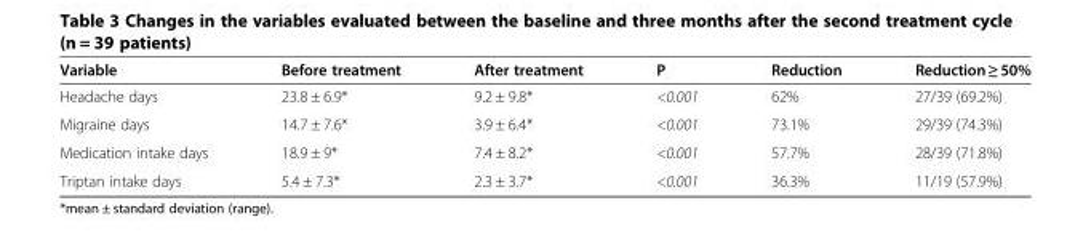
<table><thead><tr><td>Variable</td><td>Before treatment</td><td>After treatment</td><td>P</td><td>Reduction</td><td>Reduction ≥ 50%</td></tr></thead><tbody><tr><td>Headache days</td><td>23.8 ± 6.9*</td><td>9.2 ± 9.8*</td><td>&lt;0.001</td><td>62%</td><td>27/39 (69.2%)</td></tr><tr><td>Migraine days</td><td>14.7 ± 7.6*</td><td>3.9 ± 6.4*</td><td>&lt;0.001</td><td>73.1%</td><td>29/39 (74.3%)</td></tr><tr><td>Medication intake days</td><td>18.9 ± 9*</td><td>7.4 ± 8.2*</td><td>&lt;0.001</td><td>57.7%</td><td>28/39 (71.8%)</td></tr><tr><td>Triptan intake days</td><td>5.4 ± 7.3*</td><td>2.3 ± 3.7*</td><td>&lt;0.001</td><td>36.3%</td><td>11/19 (57.9%)</td></tr></tbody></table>